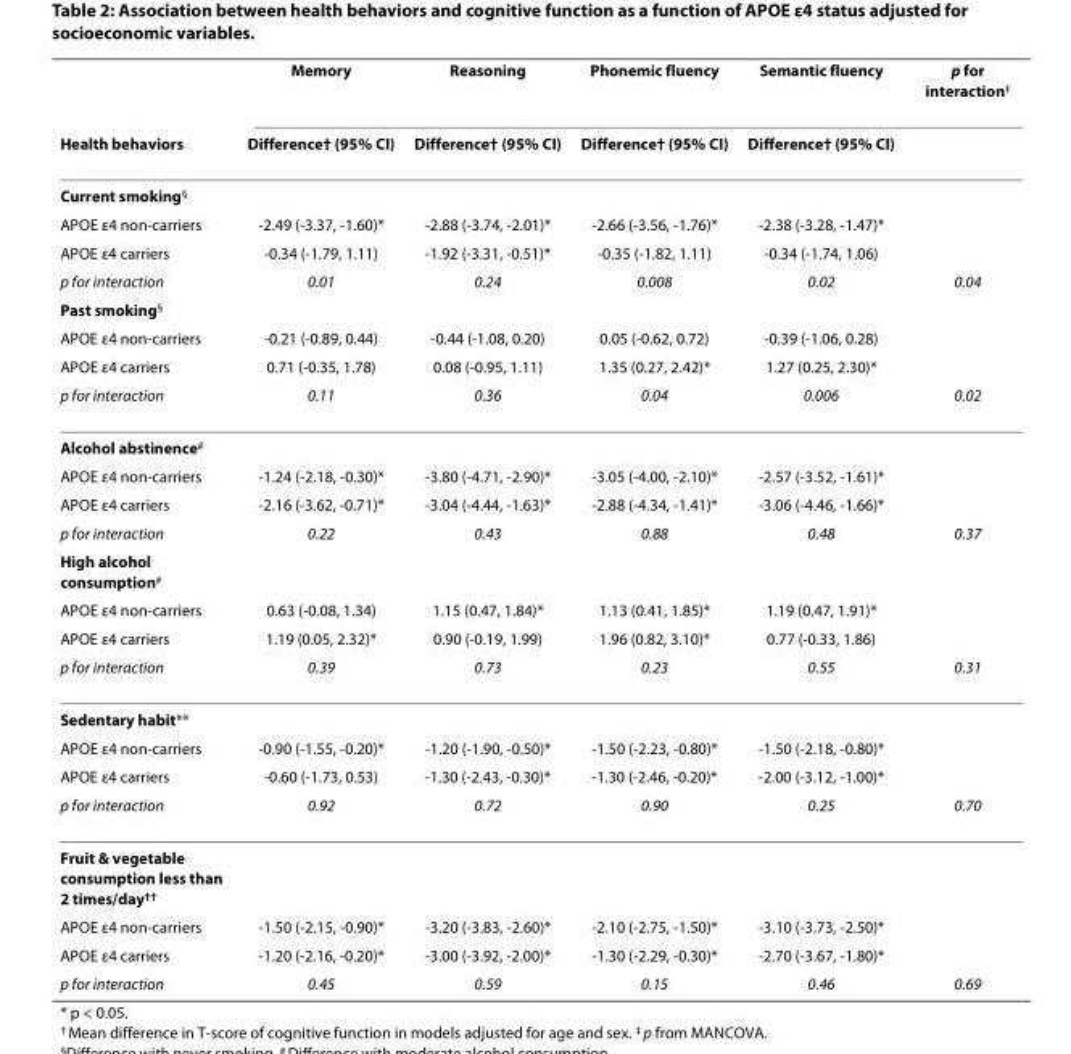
<table><thead><tr><td rowspan="2">Health behaviors</td><td rowspan="2">Memory Difference<sup>†</sup> (95% CI)</td><td rowspan="2">Reasoning Difference<sup>†</sup> (95% CI)</td><td rowspan="2">Phonemic fluency Difference<sup>†</sup> (95% CI)</td><td rowspan="2">Semantic fluency Difference<sup>†</sup> (95% CI)</td><td rowspan="2">p for interaction<sup>‡</sup></td></tr><tr></tr></thead><tbody><tr><td colspan="6">Current smoking<sup>§</sup></td></tr><tr><td>APOE ε4 non-carriers</td><td>-2.49 (-3.37, -1.60)*</td><td>-2.88 (-3.74, -2.01)*</td><td>-2.66 (-3.56, -1.76)*</td><td>-2.38 (-3.28, -1.47)*</td><td></td></tr><tr><td>APOE ε4 carriers</td><td>-0.34 (-1.79, 1.11)</td><td>-1.92 (-3.31, -0.51)*</td><td>-0.35 (-1.82, 1.11)</td><td>-0.34 (-1.74, 1.06)</td><td></td></tr><tr><td>p for interaction</td><td>0.01</td><td>0.24</td><td>0.008</td><td>0.02</td><td>0.04</td></tr><tr><td colspan="6">Past smoking<sup>§</sup></td></tr><tr><td>APOE ε4 non-carriers</td><td>-0.21 (-0.89, 0.44)</td><td>-0.44 (-1.08, 0.20)</td><td>0.05 (-0.62, 0.72)</td><td>-0.39 (-1.06, 0.28)</td><td></td></tr><tr><td>APOE ε4 carriers</td><td>0.71 (-0.35, 1.78)</td><td>0.08 (-0.95, 1.11)</td><td>1.35 (0.27, 2.42)*</td><td>1.27 (0.25, 2.30)*</td><td></td></tr><tr><td>p for interaction</td><td>0.11</td><td>0.36</td><td>0.04</td><td>0.006</td><td>0.02</td></tr><tr><td colspan="6">Alcohol abstinence<sup>#</sup></td></tr><tr><td>APOE ε4 non-carriers</td><td>-1.24 (-2.18, -0.30)*</td><td>-3.80 (-4.71, -2.90)*</td><td>-3.05 (-4.00, -2.10)*</td><td>-2.57 (-3.52, -1.61)*</td><td></td></tr><tr><td>APOE ε4 carriers</td><td>-2.16 (-3.62, -0.71)*</td><td>-3.04 (-4.44, -1.63)*</td><td>-2.88 (-4.34, -1.41)*</td><td>-3.06 (-4.46, -1.66)*</td><td></td></tr><tr><td>p for interaction</td><td>0.22</td><td>0.43</td><td>0.88</td><td>0.48</td><td>0.37</td></tr><tr><td colspan="6">High alcohol consumption<sup>#</sup></td></tr><tr><td>APOE ε4 non-carriers</td><td>0.63 (-0.08, 1.34)</td><td>1.15 (0.47, 1.84)*</td><td>1.13 (0.41, 1.85)*</td><td>1.19 (0.47, 1.91)*</td><td></td></tr><tr><td>APOE ε4 carriers</td><td>1.19 (0.05, 2.32)*</td><td>0.90 (-0.19, 1.99)</td><td>1.96 (0.82, 3.10)*</td><td>0.77 (-0.33, 1.86)</td><td></td></tr><tr><td>p for interaction</td><td>0.39</td><td>0.73</td><td>0.23</td><td>0.55</td><td>0.31</td></tr><tr><td colspan="6">Sedentary habit**</td></tr><tr><td>APOE ε4 non-carriers</td><td>-0.90 (-1.55, -0.20)*</td><td>-1.20 (-1.90, -0.50)*</td><td>-1.50 (-2.23, -0.80)*</td><td>-1.50 (-2.18, -0.80)*</td><td></td></tr><tr><td>APOE ε4 carriers</td><td>-0.60 (-1.73, 0.53)</td><td>-1.30 (-2.43, -0.30)*</td><td>-1.30 (-2.46, -0.20)*</td><td>-2.00 (-3.12, -1.00)*</td><td></td></tr><tr><td>p for interaction</td><td>0.92</td><td>0.72</td><td>0.90</td><td>0.25</td><td>0.70</td></tr><tr><td colspan="6">Fruit &amp; vegetable consumption less than 2 times/day<sup>††</sup></td></tr><tr><td>APOE ε4 non-carriers</td><td>-1.50 (-2.15, -0.90)*</td><td>-3.20 (-3.83, -2.60)*</td><td>-2.10 (-2.75, -1.50)*</td><td>-3.10 (-3.73, -2.50)*</td><td></td></tr><tr><td>APOE ε4 carriers</td><td>-1.20 (-2.16, -0.20)*</td><td>-3.00 (-3.92, -2.00)*</td><td>-1.30 (-2.29, -0.30)*</td><td>-2.70 (-3.67, -1.80)*</td><td></td></tr><tr><td>p for interaction</td><td>0.45</td><td>0.59</td><td>0.15</td><td>0.46</td><td>0.69</td></tr></tbody></table>